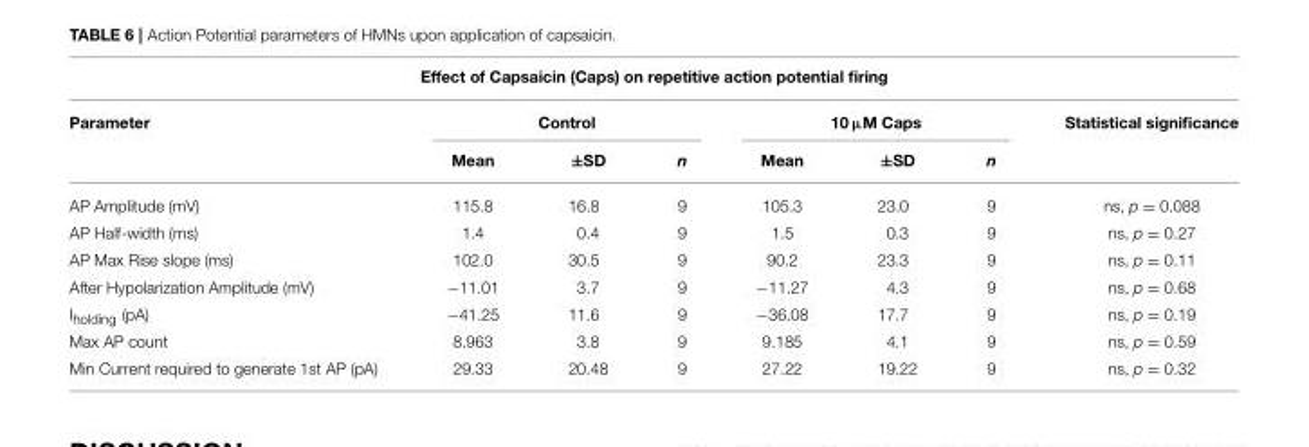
<table><thead><tr><td colspan="8">Effect of Capsaicin (Caps) on repetitive action potential firing</td></tr><tr><td rowspan="2">Parameter</td><td colspan="3">Control</td><td colspan="3">10 µM Caps</td><td rowspan="2">Statistical significance</td></tr><tr><td>Mean</td><td>±SD</td><td>n</td><td>Mean</td><td>±SD</td><td>n</td></tr></thead><tbody><tr><td>AP Amplitude (mV)</td><td>115.8</td><td>16.8</td><td>9</td><td>105.3</td><td>23.0</td><td>9</td><td>ns, p = 0.088</td></tr><tr><td>AP Half-width (ms)</td><td>1.4</td><td>0.4</td><td>9</td><td>1.5</td><td>0.3</td><td>9</td><td>ns, p = 0.27</td></tr><tr><td>AP Max Rise slope (ms)</td><td>102.0</td><td>30.5</td><td>9</td><td>90.2</td><td>23.3</td><td>9</td><td>ns, p = 0.11</td></tr><tr><td>After Hypolarization Amplitude (mV)</td><td>−11.01</td><td>3.7</td><td>9</td><td>−11.27</td><td>4.3</td><td>9</td><td>ns, p = 0.68</td></tr><tr><td>I<sub>holding</sub> (pA)</td><td>−41.25</td><td>11.6</td><td>9</td><td>−36.08</td><td>17.7</td><td>9</td><td>ns, p = 0.19</td></tr><tr><td>Max AP count</td><td>8.963</td><td>3.8</td><td>9</td><td>9.185</td><td>4.1</td><td>9</td><td>ns, p = 0.59</td></tr><tr><td>Min Current required to generate 1st AP (pA)</td><td>29.33</td><td>20.48</td><td>9</td><td>27.22</td><td>19.22</td><td>9</td><td>ns, p = 0.32</td></tr></tbody></table>